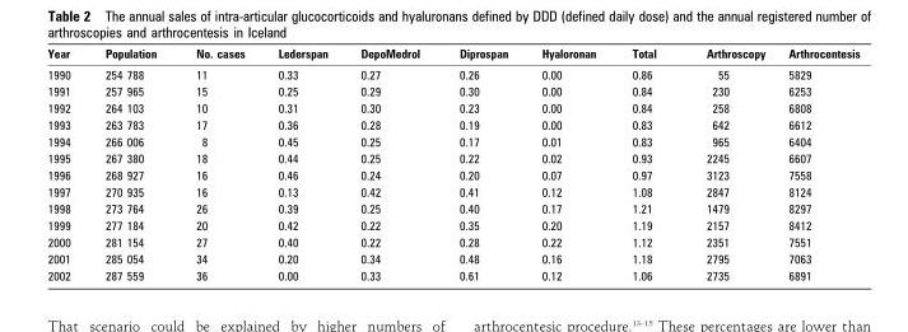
<table><thead><tr><td>Year</td><td>Population</td><td>No. cases</td><td>Lederspan</td><td>DepoMedrol</td><td>Diprospan</td><td>Hyaloronan</td><td>Total</td><td>Arthroscopy</td><td>Arthrocentesis</td></tr></thead><tbody><tr><td>1990</td><td>254 788</td><td>11</td><td>0.33</td><td>0.27</td><td>0.26</td><td>0.00</td><td>0.86</td><td>55</td><td>5829</td></tr><tr><td>1991</td><td>257 965</td><td>15</td><td>0.25</td><td>0.29</td><td>0.30</td><td>0.00</td><td>0.84</td><td>230</td><td>6253</td></tr><tr><td>1992</td><td>264 103</td><td>10</td><td>0.31</td><td>0.30</td><td>0.23</td><td>0.00</td><td>0.84</td><td>258</td><td>6808</td></tr><tr><td>1993</td><td>263 783</td><td>17</td><td>0.36</td><td>0.28</td><td>0.19</td><td>0.00</td><td>0.83</td><td>642</td><td>6612</td></tr><tr><td>1994</td><td>266 006</td><td>8</td><td>0.45</td><td>0.25</td><td>0.17</td><td>0.01</td><td>0.83</td><td>965</td><td>6404</td></tr><tr><td>1995</td><td>267 380</td><td>18</td><td>0.44</td><td>0.25</td><td>0.22</td><td>0.02</td><td>0.93</td><td>2245</td><td>6607</td></tr><tr><td>1996</td><td>268 927</td><td>16</td><td>0.46</td><td>0.24</td><td>0.20</td><td>0.07</td><td>0.97</td><td>3123</td><td>7558</td></tr><tr><td>1997</td><td>270 935</td><td>16</td><td>0.13</td><td>0.42</td><td>0.41</td><td>0.12</td><td>1.08</td><td>2847</td><td>8124</td></tr><tr><td>1998</td><td>273 764</td><td>26</td><td>0.39</td><td>0.25</td><td>0.40</td><td>0.17</td><td>1.21</td><td>1479</td><td>8297</td></tr><tr><td>1999</td><td>277 184</td><td>20</td><td>0.42</td><td>0.22</td><td>0.35</td><td>0.20</td><td>1.19</td><td>2157</td><td>8412</td></tr><tr><td>2000</td><td>281 154</td><td>27</td><td>0.40</td><td>0.22</td><td>0.28</td><td>0.22</td><td>1.12</td><td>2351</td><td>7551</td></tr><tr><td>2001</td><td>285 054</td><td>34</td><td>0.20</td><td>0.34</td><td>0.48</td><td>0.16</td><td>1.18</td><td>2795</td><td>7063</td></tr><tr><td>2002</td><td>287 559</td><td>36</td><td>0.00</td><td>0.33</td><td>0.61</td><td>0.12</td><td>1.06</td><td>2735</td><td>6891</td></tr></tbody></table>